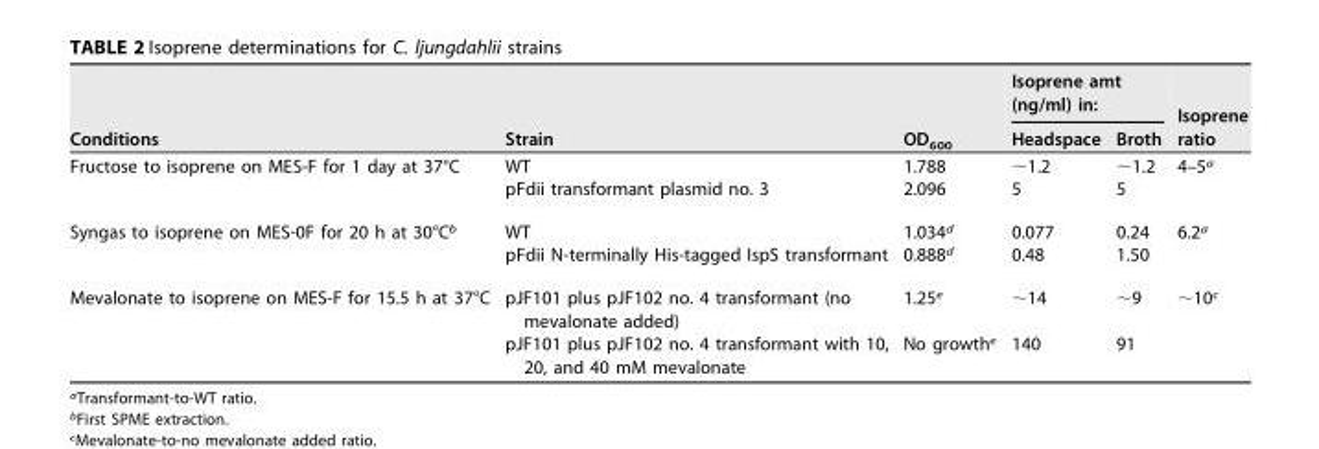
<table><thead><tr><td rowspan="2">Conditions</td><td rowspan="2">Strain</td><td rowspan="2">OD<sub>600</sub></td><td colspan="2">Isoprene amt (ng/ml) in:</td><td rowspan="2">Isoprene ratio</td></tr><tr><td>Headspace</td><td>Broth</td></tr></thead><tbody><tr><td rowspan="2">Fructose to isoprene on MES-F for 1 day at 37°C</td><td>WT</td><td>1.788</td><td>∼1.2</td><td>∼1.2</td><td rowspan="2">4–5<sup>a</sup></td></tr><tr><td>pFdii transformant plasmid no. 3</td><td>2.096</td><td>5</td><td>5</td></tr><tr><td rowspan="2">Syngas to isoprene on MES-0F for 20 h at 30°C<sup>b</sup></td><td>WT</td><td>1.034<sup>d</sup></td><td>0.077</td><td>0.24</td><td rowspan="2">6.2<sup>a</sup></td></tr><tr><td>pFdii N-terminally His-tagged IspS transformant</td><td>0.888<sup>d</sup></td><td>0.48</td><td>1.50</td></tr><tr><td rowspan="2">Mevalonate to isoprene on MES-F for 15.5 h at 37°C</td><td>pJF101 plus pJF102 no. 4 transformant (no mevalonate added)</td><td>1.25<sup>e</sup></td><td>∼14</td><td>∼9</td><td rowspan="2">∼10<sup>c</sup></td></tr><tr><td>pJF101 plus pJF102 no. 4 transformant with 10, 20, and 40 mM mevalonate</td><td>No growth<sup>e</sup></td><td>140</td><td>91</td></tr></tbody></table>